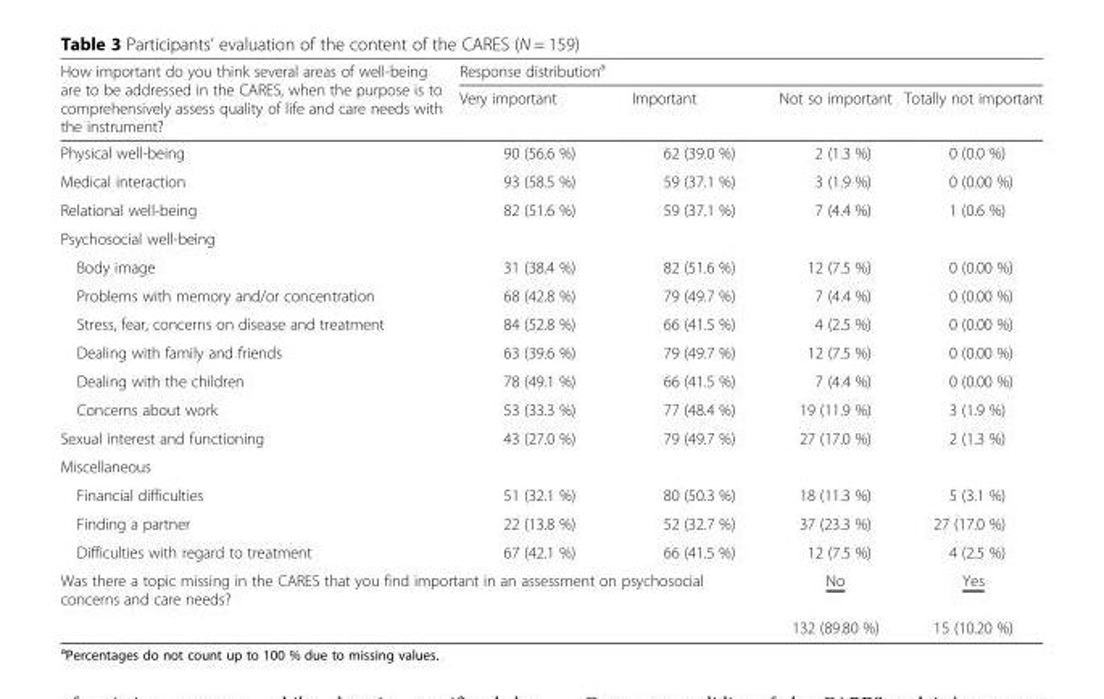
<table><thead><tr><td rowspan="2">How important do you think several areas of well-being are to be addressed in the CARES, when the purpose is to comprehensively assess quality of life and care needs with the instrument?</td><td colspan="4">Response distribution<sup>a</sup></td></tr><tr><td>Very important</td><td>Important</td><td>Not so important</td><td>Totally not important</td></tr></thead><tbody><tr><td>Physical well-being</td><td>90 (56.6 %)</td><td>62 (39.0 %)</td><td>2 (1.3 %)</td><td>0 (0.0 %)</td></tr><tr><td>Medical interaction</td><td>93 (58.5 %)</td><td>59 (37.1 %)</td><td>3 (1.9 %)</td><td>0 (0.00 %)</td></tr><tr><td>Relational well-being</td><td>82 (51.6 %)</td><td>59 (37.1 %)</td><td>7 (4.4 %)</td><td>1 (0.6 %)</td></tr><tr><td colspan="5">Psychosocial well-being</td></tr><tr><td>Body image</td><td>31 (38.4 %)</td><td>82 (51.6 %)</td><td>12 (7.5 %)</td><td>0 (0.00 %)</td></tr><tr><td>Problems with memory and/or concentration</td><td>68 (42.8 %)</td><td>79 (49.7 %)</td><td>7 (4.4 %)</td><td>0 (0.00 %)</td></tr><tr><td>Stress, fear, concerns on disease and treatment</td><td>84 (52.8 %)</td><td>66 (41.5 %)</td><td>4 (2.5 %)</td><td>0 (0.00 %)</td></tr><tr><td>Dealing with family and friends</td><td>63 (39.6 %)</td><td>79 (49.7 %)</td><td>12 (7.5 %)</td><td>0 (0.00 %)</td></tr><tr><td>Dealing with the children</td><td>78 (49.1 %)</td><td>66 (41.5 %)</td><td>7 (4.4 %)</td><td>0 (0.00 %)</td></tr><tr><td>Concerns about work</td><td>53 (33.3 %)</td><td>77 (48.4 %)</td><td>19 (11.9 %)</td><td>3 (1.9 %)</td></tr><tr><td>Sexual interest and functioning</td><td>43 (27.0 %)</td><td>79 (49.7 %)</td><td>27 (17.0 %)</td><td>2 (1.3 %)</td></tr><tr><td colspan="5">Miscellaneous</td></tr><tr><td>Financial difficulties</td><td>51 (32.1 %)</td><td>80 (50.3 %)</td><td>18 (11.3 %)</td><td>5 (3.1 %)</td></tr><tr><td>Finding a partner</td><td>22 (13.8 %)</td><td>52 (32.7 %)</td><td>37 (23.3 %)</td><td>27 (17.0 %)</td></tr><tr><td>Difficulties with regard to treatment</td><td>67 (42.1 %)</td><td>66 (41.5 %)</td><td>12 (7.5 %)</td><td>4 (2.5 %)</td></tr><tr><td rowspan="2" colspan="3">Was there a topic missing in the CARES that you find important in an assessment on psychosocial concerns and care needs?</td><td>No</td><td>Yes</td></tr><tr><td>132 (89.80 %)</td><td>15 (10.20 %)</td></tr></tbody></table>